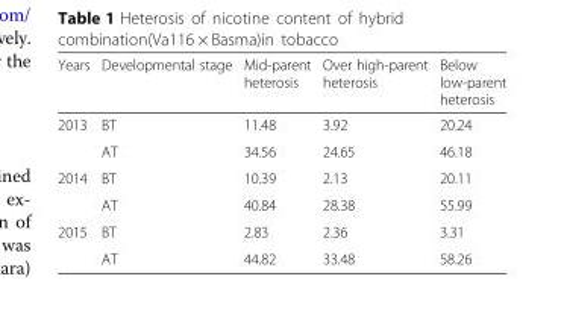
<table><thead><tr><td>Years</td><td>Developmental stage</td><td>Mid-parent heterosis</td><td>Over high-parent heterosis</td><td>Below low-parent heterosis</td></tr></thead><tbody><tr><td rowspan="2">2013</td><td>BT</td><td>11.48</td><td>3.92</td><td>20.24</td></tr><tr><td>AT</td><td>34.56</td><td>24.65</td><td>46.18</td></tr><tr><td rowspan="2">2014</td><td>BT</td><td>10.39</td><td>2.13</td><td>20.11</td></tr><tr><td>AT</td><td>40.84</td><td>28.38</td><td>55.99</td></tr><tr><td rowspan="2">2015</td><td>BT</td><td>2.83</td><td>2.36</td><td>3.31</td></tr><tr><td>AT</td><td>44.82</td><td>33.48</td><td>58.26</td></tr></tbody></table>